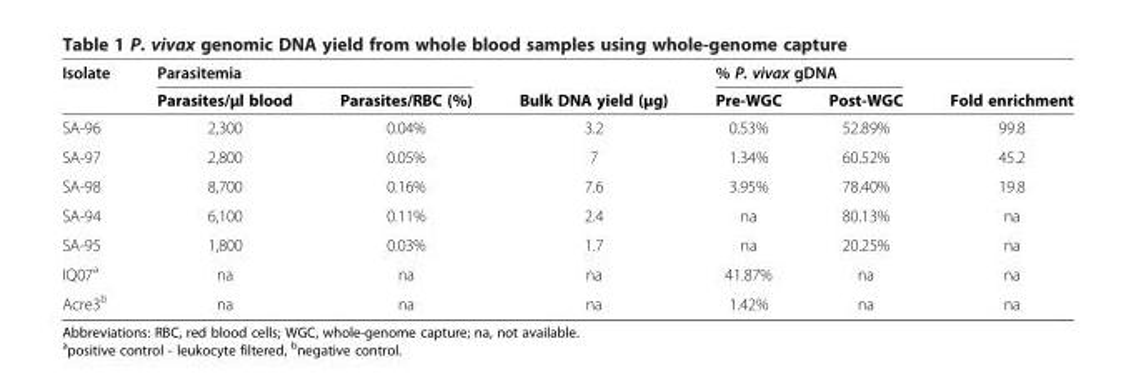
<table><thead><tr><td rowspan="2">Isolate</td><td colspan="2">Parasitemia</td><td rowspan="2">Bulk DNA yield (μg)</td><td colspan="2">% P. vivax gDNA</td><td rowspan="2">Fold enrichment</td></tr><tr><td>Parasites/μl blood</td><td>Parasites/RBC (%)</td><td>Pre-WGC</td><td>Post-WGC</td></tr></thead><tbody><tr><td>SA-96</td><td>2,300</td><td>0.04%</td><td>3.2</td><td>0.53%</td><td>52.89%</td><td>99.8</td></tr><tr><td>SA-97</td><td>2,800</td><td>0.05%</td><td>7</td><td>1.34%</td><td>60.52%</td><td>45.2</td></tr><tr><td>SA-98</td><td>8,700</td><td>0.16%</td><td>7.6</td><td>3.95%</td><td>78.40%</td><td>19.8</td></tr><tr><td>SA-94</td><td>6,100</td><td>0.11%</td><td>2.4</td><td>na</td><td>80.13%</td><td>na</td></tr><tr><td>SA-95</td><td>1,800</td><td>0.03%</td><td>1.7</td><td>na</td><td>20.25%</td><td>na</td></tr><tr><td>IQ07<sup>a</sup></td><td>na</td><td>na</td><td>na</td><td>41.87%</td><td>na</td><td>na</td></tr><tr><td>Acre3<sup>b</sup></td><td>na</td><td>na</td><td>na</td><td>1.42%</td><td>na</td><td>na</td></tr></tbody></table>